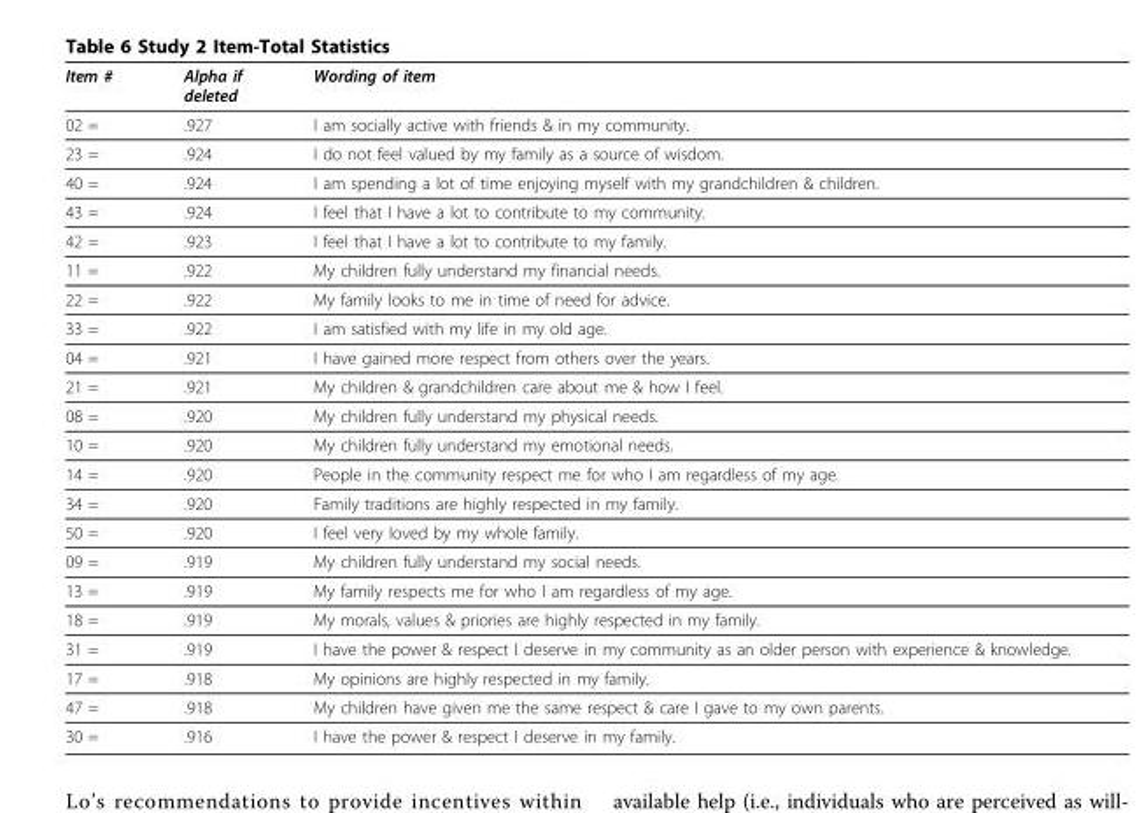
<table><thead><tr><td>Item #</td><td>Alpha if deleted</td><td>Wording of item</td></tr></thead><tbody><tr><td>02 =</td><td>.927</td><td>I am socially active with friends &amp; in my community.</td></tr><tr><td>23 =</td><td>.924</td><td>I do not feel valued by my family as a source of wisdom.</td></tr><tr><td>40 =</td><td>.924</td><td>I am spending a lot of time enjoying myself with my grandchildren &amp; children.</td></tr><tr><td>43 =</td><td>.924</td><td>I feel that I have a lot to contribute to my community.</td></tr><tr><td>42 =</td><td>.923</td><td>I feel that I have a lot to contribute to my family.</td></tr><tr><td>11 =</td><td>.922</td><td>My children fully understand my financial needs.</td></tr><tr><td>22 =</td><td>.922</td><td>My family looks to me in time of need for advice.</td></tr><tr><td>33 =</td><td>.922</td><td>I am satisfied with my life in my old age.</td></tr><tr><td>04 =</td><td>.921</td><td>I have gained more respect from others over the years.</td></tr><tr><td>21 =</td><td>.921</td><td>My children &amp; grandchildren care about me &amp; how I feel.</td></tr><tr><td>08 =</td><td>.920</td><td>My children fully understand my physical needs.</td></tr><tr><td>10 =</td><td>.920</td><td>My children fully understand my emotional needs.</td></tr><tr><td>14 =</td><td>.920</td><td>People in the community respect me for who I am regardless of my age.</td></tr><tr><td>34 =</td><td>.920</td><td>Family traditions are highly respected in my family.</td></tr><tr><td>50 =</td><td>.920</td><td>I feel very loved by my whole family.</td></tr><tr><td>09 =</td><td>.919</td><td>My children fully understand my social needs.</td></tr><tr><td>13 =</td><td>.919</td><td>My family respects me for who I am regardless of my age.</td></tr><tr><td>18 =</td><td>.919</td><td>My morals, values &amp; priories are highly respected in my family.</td></tr><tr><td>31 =</td><td>.919</td><td>I have the power &amp; respect I deserve in my community as an older person with experience &amp; knowledge.</td></tr><tr><td>17 =</td><td>.918</td><td>My opinions are highly respected in my family.</td></tr><tr><td>47 =</td><td>.918</td><td>My children have given me the same respect &amp; care I gave to my own parents.</td></tr><tr><td>30 =</td><td>.916</td><td>I have the power &amp; respect I deserve in my family.</td></tr></tbody></table>